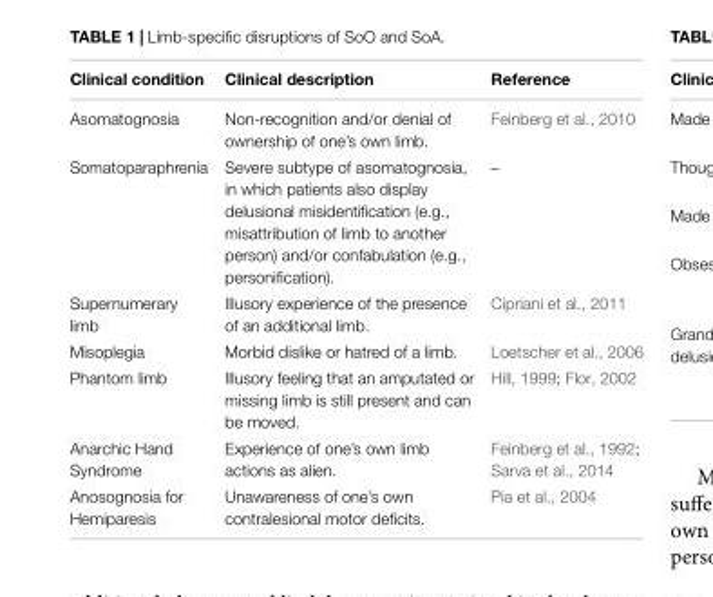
<table><thead><tr><td>Clinical condition</td><td>Clinical description</td><td>Reference</td></tr></thead><tbody><tr><td>Asomatognosia</td><td>Non-recognition and/or denial of ownership of one’s own limb.</td><td>Feinberg et al., 2010</td></tr><tr><td>Somatoparaphrenia</td><td>Severe subtype of asomatognosia, in which patients also display delusional misidentification (e.g., misattribution of limb to another person) and/or confabulation (e.g., personification).</td><td>–</td></tr><tr><td>Supernumerary limb</td><td>Illusory experience of the presence of an additional limb.</td><td>Cipriani et al., 2011</td></tr><tr><td>Misoplegia</td><td>Morbid dislike or hatred of a limb.</td><td>Loetscher et al., 2006</td></tr><tr><td>Phantom limb</td><td>Illusory feeling that an amputated or missing limb is still present and can be moved.</td><td>Hill, 1999; Flor, 2002</td></tr><tr><td>Anarchic Hand Syndrome</td><td>Experience of one’s own limb actions as alien.</td><td>Feinberg et al., 1992; Sarva et al., 2014</td></tr><tr><td>Anosognosia for Hemiparesis</td><td>Unawareness of one’s own contralesional motor deficits.</td><td>Pia et al., 2004</td></tr></tbody></table>